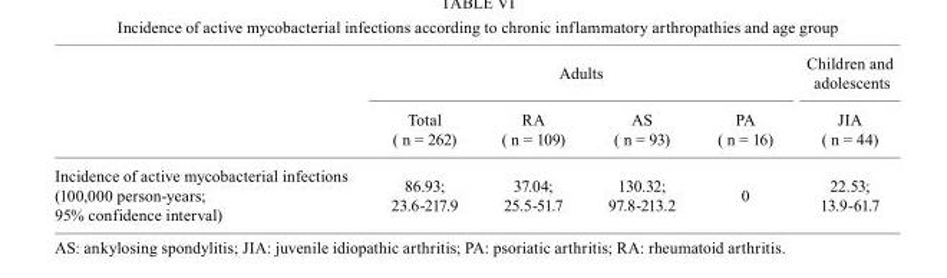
<table><thead><tr><td rowspan="2"></td><td colspan="4">Adults</td><td rowspan="2">Children and adolescents JIA ( n = 44)</td></tr><tr><td>Total ( n = 262)</td><td>RA ( n = 109)</td><td>AS ( n = 93)</td><td>PA ( n = 16)</td></tr></thead><tbody><tr><td>Incidence of active mycobacterial infections (100,000 person-years; 95% confidence interval)</td><td>86.93; 23.6-217.9</td><td>37.04; 25.5-51.7</td><td>130.32; 97.8-213.2</td><td>0</td><td>22.53; 13.9-61.7</td></tr></tbody></table>